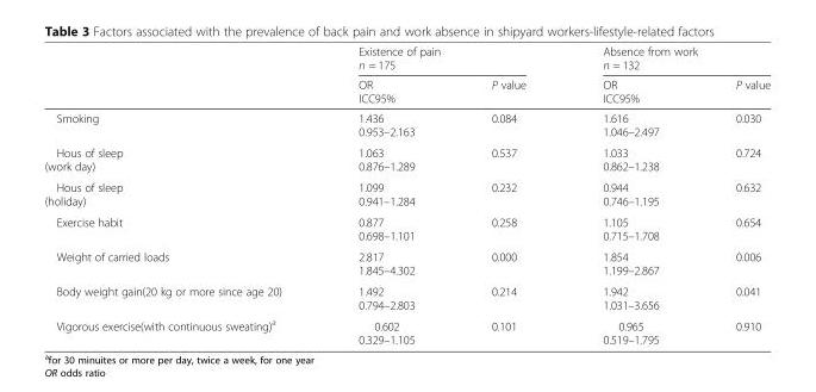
<table><thead><tr><td rowspan="2"></td><td colspan="2">Existence of pain n = 175</td><td colspan="2">Absence from work n = 132</td></tr><tr><td>OR ICC95%</td><td>P value</td><td>OR ICC95%</td><td>P value</td></tr></thead><tbody><tr><td>Smoking</td><td>1.436 0.953–2.163</td><td>0.084</td><td>1.616 1.046–2.497</td><td>0.030</td></tr><tr><td>Hous of sleep (work day)</td><td>1.063 0.876–1.289</td><td>0.537</td><td>1.033 0.862–1.238</td><td>0.724</td></tr><tr><td>Hous of sleep (holiday)</td><td>1.099 0.941–1.284</td><td>0.232</td><td>0.944 0.746–1.195</td><td>0.632</td></tr><tr><td>Exercise habit</td><td>0.877 0.698–1.101</td><td>0.258</td><td>1.105 0.715–1.708</td><td>0.654</td></tr><tr><td>Weight of carried loads</td><td>2.817 1.845–4.302</td><td>0.000</td><td>1.854 1.199–2.867</td><td>0.006</td></tr><tr><td>Body weight gain(20 kg or more since age 20)</td><td>1.492 0.794–2.803</td><td>0.214</td><td>1.942 1.031–3.656</td><td>0.041</td></tr><tr><td>Vigorous exercise(with continuous sweating)a</td><td>0.602 0.329–1.105</td><td>0.101</td><td>0.965 0.519–1.795</td><td>0.910</td></tr></tbody></table>